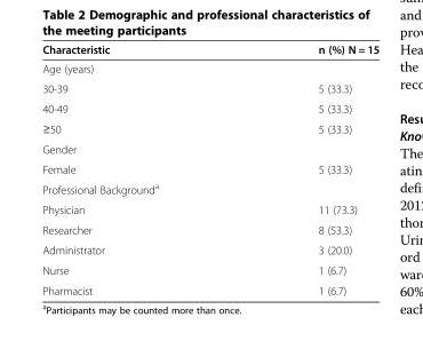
<table><thead><tr><td>Characteristic</td><td>n (%) N = 15</td></tr></thead><tbody><tr><td colspan="2">Age (years)</td></tr><tr><td>30-39</td><td>5 (33.3)</td></tr><tr><td>40-49</td><td>5 (33.3)</td></tr><tr><td>≥50</td><td>5 (33.3)</td></tr><tr><td colspan="2">Gender</td></tr><tr><td>Female</td><td>5 (33.3)</td></tr><tr><td colspan="2">Professional Background<sup>a</sup></td></tr><tr><td>Physician</td><td>11 (73.3)</td></tr><tr><td>Researcher</td><td>8 (53.3)</td></tr><tr><td>Administrator</td><td>3 (20.0)</td></tr><tr><td>Nurse</td><td>1 (6.7)</td></tr><tr><td>Pharmacist</td><td>1 (6.7)</td></tr></tbody></table>